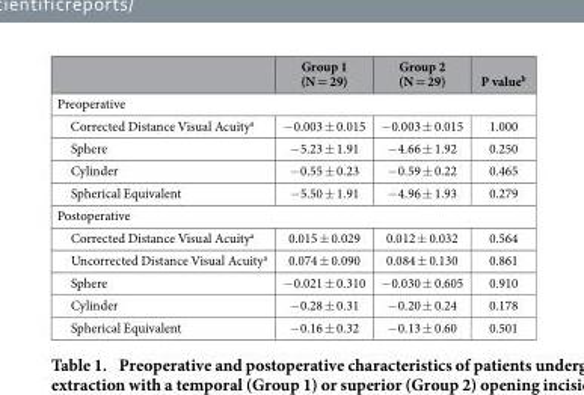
<table><thead><tr><td></td><td>Group 1 (N = 29)</td><td>Group 2 (N = 29)</td><td>P value<sup>b</sup></td></tr></thead><tbody><tr><td colspan="4">Preoperative</td></tr><tr><td>Corrected Distance Visual Acuity<sup>a</sup></td><td>− 0.003 ± 0.015</td><td>− 0.003 ± 0.015</td><td>1.000</td></tr><tr><td>Sphere</td><td>− 5.23 ± 1.91</td><td>− 4.66 ± 1.92</td><td>0.250</td></tr><tr><td>Cylinder</td><td>− 0.55 ± 0.23</td><td>− 0.59 ± 0.22</td><td>0.465</td></tr><tr><td>Spherical Equivalent</td><td>− 5.50 ± 1.91</td><td>− 4.96 ± 1.93</td><td>0.279</td></tr><tr><td colspan="4">Postoperative</td></tr><tr><td>Corrected Distance Visual Acuity<sup>a</sup></td><td>0.015 ± 0.029</td><td>0.012 ± 0.032</td><td>0.564</td></tr><tr><td>Uncorrected Distance Visual Acuity<sup>a</sup></td><td>0.074 ± 0.090</td><td>0.084 ± 0.130</td><td>0.861</td></tr><tr><td>Sphere</td><td>− 0.021 ± 0.310</td><td>− 0.030 ± 0.605</td><td>0.910</td></tr><tr><td>Cylinder</td><td>− 0.28 ± 0.31</td><td>− 0.20 ± 0.24</td><td>0.178</td></tr><tr><td>Spherical Equivalent</td><td>− 0.16 ± 0.32</td><td>− 0.13 ± 0.60</td><td>0.501</td></tr></tbody></table>